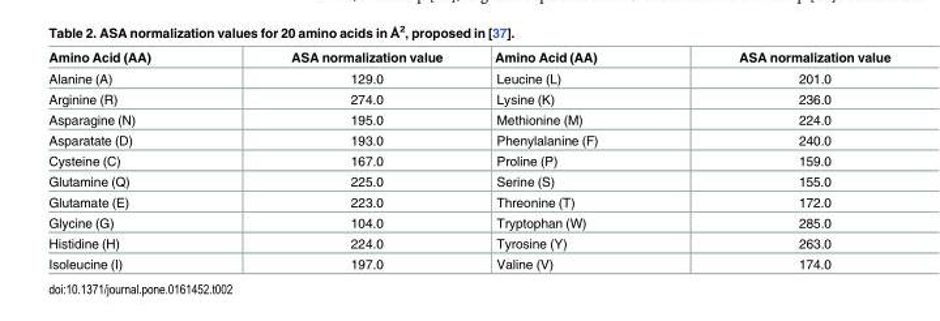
<table><thead><tr><td>Amino Acid (AA)</td><td>ASA normalization value</td><td>Amino Acid (AA)</td><td>ASA normalization value</td></tr></thead><tbody><tr><td>Alanine (A)</td><td>129.0</td><td>Leucine (L)</td><td>201.0</td></tr><tr><td>Arginine (R)</td><td>274.0</td><td>Lysine (K)</td><td>236.0</td></tr><tr><td>Asparagine (N)</td><td>195.0</td><td>Methionine (M)</td><td>224.0</td></tr><tr><td>Asparatate (D)</td><td>193.0</td><td>Phenylalanine (F)</td><td>240.0</td></tr><tr><td>Cysteine (C)</td><td>167.0</td><td>Proline (P)</td><td>159.0</td></tr><tr><td>Glutamine (Q)</td><td>225.0</td><td>Serine (S)</td><td>155.0</td></tr><tr><td>Glutamate (E)</td><td>223.0</td><td>Threonine (T)</td><td>172.0</td></tr><tr><td>Glycine (G)</td><td>104.0</td><td>Tryptophan (W)</td><td>285.0</td></tr><tr><td>Histidine (H)</td><td>224.0</td><td>Tyrosine (Y)</td><td>263.0</td></tr><tr><td>Isoleucine (I)</td><td>197.0</td><td>Valine (V)</td><td>174.0</td></tr></tbody></table>